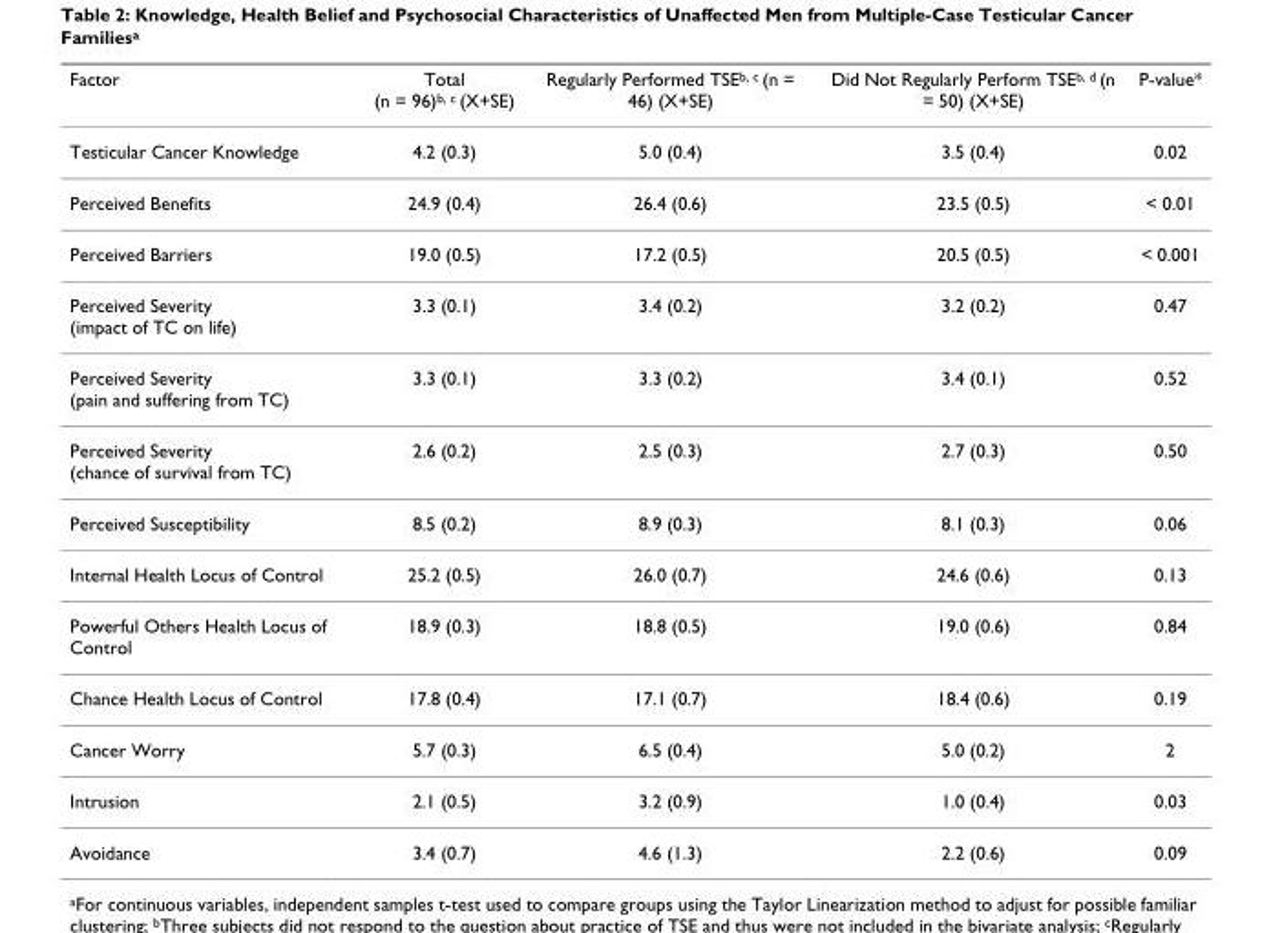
<table><thead><tr><td>Factor</td><td>Total (n = 96)<sup>b, c</sup> (X+SE)</td><td>Regularly Performed TSE<sup>b, c</sup> (n = 46) (X+SE)</td><td>Did Not Regularly Perform TSE<sup>b, d</sup> (n = 50) (X+SE)</td><td>P-value*</td></tr></thead><tbody><tr><td>Testicular Cancer Knowledge</td><td>4.2 (0.3)</td><td>5.0 (0.4)</td><td>3.5 (0.4)</td><td>0.02</td></tr><tr><td>Perceived Benefits</td><td>24.9 (0.4)</td><td>26.4 (0.6)</td><td>23.5 (0.5)</td><td>&lt; 0.01</td></tr><tr><td>Perceived Barriers</td><td>19.0 (0.5)</td><td>17.2 (0.5)</td><td>20.5 (0.5)</td><td>&lt; 0.001</td></tr><tr><td>Perceived Severity (impact of TC on life)</td><td>3.3 (0.1)</td><td>3.4 (0.2)</td><td>3.2 (0.2)</td><td>0.47</td></tr><tr><td>Perceived Severity (pain and suffering from TC)</td><td>3.3 (0.1)</td><td>3.3 (0.2)</td><td>3.4 (0.1)</td><td>0.52</td></tr><tr><td>Perceived Severity (chance of survival from TC)</td><td>2.6 (0.2)</td><td>2.5 (0.3)</td><td>2.7 (0.3)</td><td>0.50</td></tr><tr><td>Perceived Susceptibility</td><td>8.5 (0.2)</td><td>8.9 (0.3)</td><td>8.1 (0.3)</td><td>0.06</td></tr><tr><td>Internal Health Locus of Control</td><td>25.2 (0.5)</td><td>26.0 (0.7)</td><td>24.6 (0.6)</td><td>0.13</td></tr><tr><td>Powerful Others Health Locus of Control</td><td>18.9 (0.3)</td><td>18.8 (0.5)</td><td>19.0 (0.6)</td><td>0.84</td></tr><tr><td>Chance Health Locus of Control</td><td>17.8 (0.4)</td><td>17.1 (0.7)</td><td>18.4 (0.6)</td><td>0.19</td></tr><tr><td>Cancer Worry</td><td>5.7 (0.3)</td><td>6.5 (0.4)</td><td>5.0 (0.2)</td><td>2</td></tr><tr><td>Intrusion</td><td>2.1 (0.5)</td><td>3.2 (0.9)</td><td>1.0 (0.4)</td><td>0.03</td></tr><tr><td>Avoidance</td><td>3.4 (0.7)</td><td>4.6 (1.3)</td><td>2.2 (0.6)</td><td>0.09</td></tr></tbody></table>